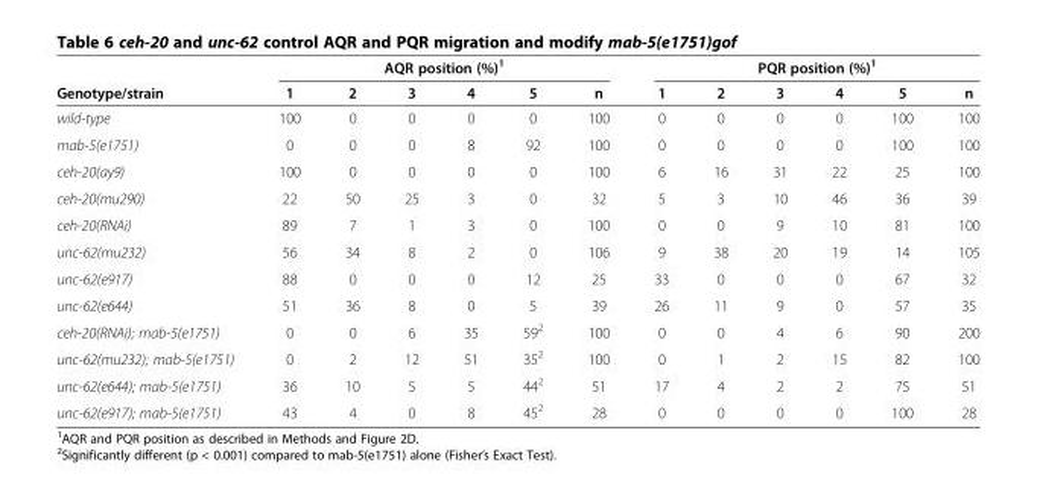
<table><thead><tr><td rowspan="2">Genotype/strain</td><td colspan="6">AQR position (%)<sup>1</sup></td><td colspan="6">PQR position (%)<sup>1</sup></td></tr><tr><td>1</td><td>2</td><td>3</td><td>4</td><td>5</td><td>n</td><td>1</td><td>2</td><td>3</td><td>4</td><td>5</td><td>n</td></tr></thead><tbody><tr><td>wild-type</td><td>100</td><td>0</td><td>0</td><td>0</td><td>0</td><td>100</td><td>0</td><td>0</td><td>0</td><td>0</td><td>100</td><td>100</td></tr><tr><td>mab-5(e1751)</td><td>0</td><td>0</td><td>0</td><td>8</td><td>92</td><td>100</td><td>0</td><td>0</td><td>0</td><td>0</td><td>100</td><td>100</td></tr><tr><td>ceh-20(ay9)</td><td>100</td><td>0</td><td>0</td><td>0</td><td>0</td><td>100</td><td>6</td><td>16</td><td>31</td><td>22</td><td>25</td><td>100</td></tr><tr><td>ceh-20(mu290)</td><td>22</td><td>50</td><td>25</td><td>3</td><td>0</td><td>32</td><td>5</td><td>3</td><td>10</td><td>46</td><td>36</td><td>39</td></tr><tr><td>ceh-20(RNAi)</td><td>89</td><td>7</td><td>1</td><td>3</td><td>0</td><td>100</td><td>0</td><td>0</td><td>9</td><td>10</td><td>81</td><td>100</td></tr><tr><td>unc-62(mu232)</td><td>56</td><td>34</td><td>8</td><td>2</td><td>0</td><td>106</td><td>9</td><td>38</td><td>20</td><td>19</td><td>14</td><td>105</td></tr><tr><td>unc-62(e917)</td><td>88</td><td>0</td><td>0</td><td>0</td><td>12</td><td>25</td><td>33</td><td>0</td><td>0</td><td>0</td><td>67</td><td>32</td></tr><tr><td>unc-62(e644)</td><td>51</td><td>36</td><td>8</td><td>0</td><td>5</td><td>39</td><td>26</td><td>11</td><td>9</td><td>0</td><td>57</td><td>35</td></tr><tr><td>ceh-20(RNAi); mab-5(e1751)</td><td>0</td><td>0</td><td>6</td><td>35</td><td>59<sup>2</sup></td><td>100</td><td>0</td><td>0</td><td>4</td><td>6</td><td>90</td><td>200</td></tr><tr><td>unc-62(mu232); mab-5(e1751)</td><td>0</td><td>2</td><td>12</td><td>51</td><td>35<sup>2</sup></td><td>100</td><td>0</td><td>1</td><td>2</td><td>15</td><td>82</td><td>100</td></tr><tr><td>unc-62(e644); mab-5(e1751)</td><td>36</td><td>10</td><td>5</td><td>5</td><td>44<sup>2</sup></td><td>51</td><td>17</td><td>4</td><td>2</td><td>2</td><td>75</td><td>51</td></tr><tr><td>unc-62(e917); mab-5(e1751)</td><td>43</td><td>4</td><td>0</td><td>8</td><td>45<sup>2</sup></td><td>28</td><td>0</td><td>0</td><td>0</td><td>0</td><td>100</td><td>28</td></tr></tbody></table>